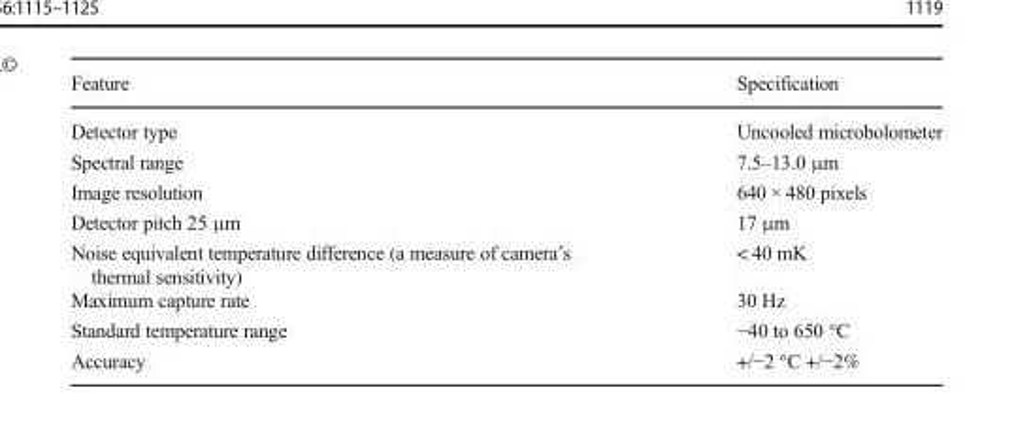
<table><thead><tr><td>Feature</td><td>Specification</td></tr></thead><tbody><tr><td>Detector type</td><td>Uncooled microbolometer</td></tr><tr><td>Spectral range</td><td>7.5–13.0 μm</td></tr><tr><td>Image resolution</td><td>640 × 480 pixels</td></tr><tr><td>Detector pitch 25 μm</td><td>17 μm</td></tr><tr><td>Noise equivalent temperature difference (a measure of camera’s thermal sensitivity)</td><td>&lt; 40 mK</td></tr><tr><td>Maximum capture rate</td><td>30 Hz</td></tr><tr><td>Standard temperature range</td><td>−40 to 650 °C</td></tr><tr><td>Accuracy</td><td>+/−2 °C +/−2%</td></tr></tbody></table>